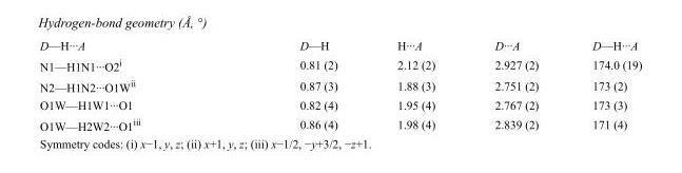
<table><tbody><tr><td>D—H···A</td><td>D—H</td><td>H···A</td><td>D···A</td><td>D—H···A</td></tr><tr><td>N1—H1N1···O2<sup>i</sup></td><td>0.81 (2)</td><td>2.12 (2)</td><td>2.927 (2)</td><td>174.0 (19)</td></tr><tr><td>N2—H1N2···O1W<sup>ii</sup></td><td>0.87 (3)</td><td>1.88 (3)</td><td>2.751 (2)</td><td>173 (2)</td></tr><tr><td>O1W—H1W1···O1</td><td>0.82 (4)</td><td>1.95 (4)</td><td>2.767 (2)</td><td>173 (3)</td></tr><tr><td>O1W—H2W2···O1<sup>iii</sup></td><td>0.86 (4)</td><td>1.98 (4)</td><td>2.839 (2)</td><td>171 (4)</td></tr></tbody></table>